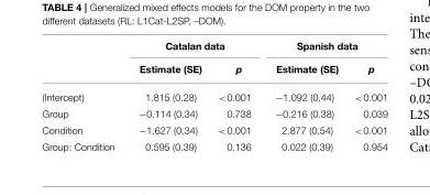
<table><thead><tr><td rowspan="2"></td><td colspan="2">Catalan data</td><td colspan="2">Spanish data</td></tr><tr><td>Estimate (SE)</td><td>p</td><td>Estimate (SE)</td><td>p</td></tr></thead><tbody><tr><td>(Intercept)</td><td>1.815 (0.28)</td><td>&lt;0.001</td><td>−1.092 (0.44)</td><td>&lt;0.001</td></tr><tr><td>Group</td><td>−0.114 (0.34)</td><td>0.738</td><td>−0.216 (0.38)</td><td>0.039</td></tr><tr><td>Condition</td><td>−1.627 (0.34)</td><td>&lt;0.001</td><td>2.877 (0.54)</td><td>&lt;0.001</td></tr><tr><td>Group: Condition</td><td>0.595 (0.39)</td><td>0.136</td><td>0.022 (0.39)</td><td>0.954</td></tr></tbody></table>